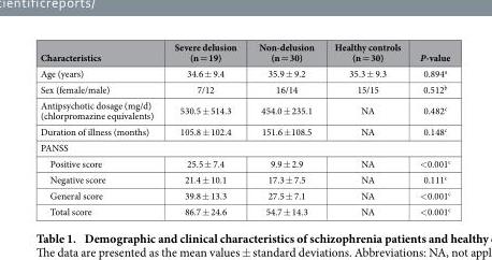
<table><thead><tr><td>Characteristics</td><td>Severe delusion (n = 19)</td><td>Non-delusion (n = 30)</td><td>Healthy controls (n = 30)</td><td>P-value</td></tr></thead><tbody><tr><td>Age (years)</td><td>34.6 ± 9.4</td><td>35.9 ± 9.2</td><td>35.3 ± 9.3</td><td>0.894<sup>a</sup></td></tr><tr><td>Sex (female/male)</td><td>7/12</td><td>16/14</td><td>15/15</td><td>0.512<sup>b</sup></td></tr><tr><td>Antipsychotic dosage (mg/d) (chlorpromazine equivalents)</td><td>530.5 ± 514.3</td><td>454.0 ± 235.1</td><td>NA</td><td>0.482<sup>c</sup></td></tr><tr><td>Duration of illness (months)</td><td>105.8 ± 102.4</td><td>151.6 ± 108.5</td><td>NA</td><td>0.148<sup>c</sup></td></tr><tr><td colspan="5">PANSS</td></tr><tr><td>Positive score</td><td>25.5 ± 7.4</td><td>9.9 ± 2.9</td><td>NA</td><td>&lt; 0.001<sup>c</sup></td></tr><tr><td>Negative score</td><td>21.4 ± 10.1</td><td>17.3 ± 7.5</td><td>NA</td><td>0.111<sup>c</sup></td></tr><tr><td>General score</td><td>39.8 ± 13.3</td><td>27.5 ± 7.1</td><td>NA</td><td>&lt; 0.001<sup>c</sup></td></tr><tr><td>Total score</td><td>86.7 ± 24.6</td><td>54.7 ± 14.3</td><td>NA</td><td>&lt; 0.001<sup>c</sup></td></tr></tbody></table>